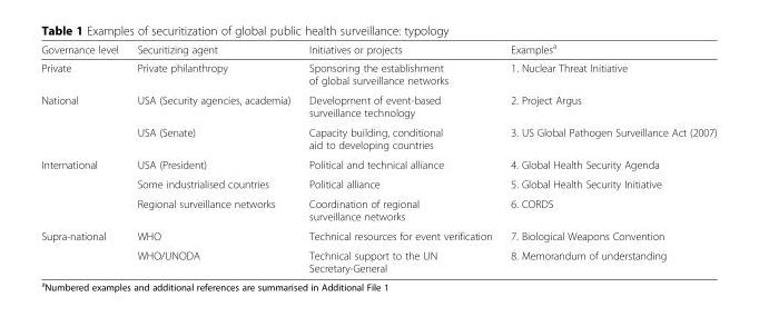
<table><thead><tr><td>Governance level</td><td>Securitizing agent</td><td>Initiatives or projects</td><td>Examples<sup>a</sup></td></tr></thead><tbody><tr><td>Private</td><td>Private philanthropy</td><td>Sponsoring the establishment of global surveillance networks</td><td>1. Nuclear Threat Initiative</td></tr><tr><td rowspan="2">National</td><td>USA (Security agencies, academia)</td><td>Development of event-based surveillance technology</td><td>2. Project Argus</td></tr><tr><td>USA (Senate)</td><td>Capacity building, conditional aid to developing countries</td><td>3. US Global Pathogen Surveillance Act (2007)</td></tr><tr><td rowspan="3">International</td><td>USA (President)</td><td>Political and technical alliance</td><td>4. Global Health Security Agenda</td></tr><tr><td>Some industrialised countries</td><td>Political alliance</td><td>5. Global Health Security Initiative</td></tr><tr><td>Regional surveillance networks</td><td>Coordination of regional surveillance networks</td><td>6. CORDS</td></tr><tr><td rowspan="2">Supra-national</td><td>WHO</td><td>Technical resources for event verification</td><td>7. Biological Weapons Convention</td></tr><tr><td>WHO/UNODA</td><td>Technical support to the UN Secretary-General</td><td>8. Memorandum of understanding</td></tr></tbody></table>